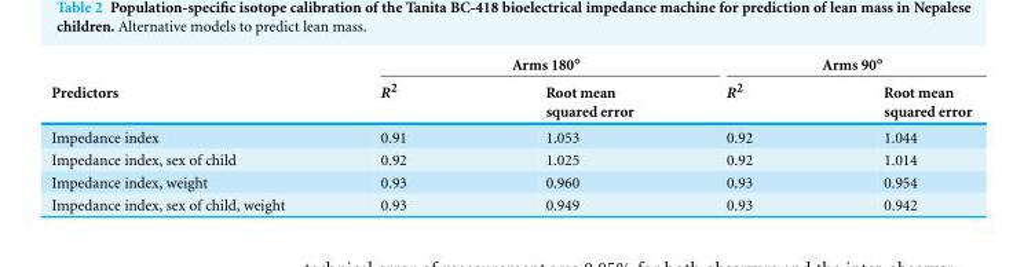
<table><thead><tr><td rowspan="2">Predictors</td><td colspan="2">Arms 180◦</td><td colspan="2">Arms 90◦</td></tr><tr><td>R<sup>2</sup></td><td>Root mean squared error</td><td>R<sup>2</sup></td><td>Root mean squared error</td></tr></thead><tbody><tr><td>Impedance index</td><td>0.91</td><td>1.053</td><td>0.92</td><td>1.044</td></tr><tr><td>Impedance index, sex of child</td><td>0.92</td><td>1.025</td><td>0.92</td><td>1.014</td></tr><tr><td>Impedance index, weight</td><td>0.93</td><td>0.960</td><td>0.93</td><td>0.954</td></tr><tr><td>Impedance index, sex of child, weight</td><td>0.93</td><td>0.949</td><td>0.93</td><td>0.942</td></tr></tbody></table>